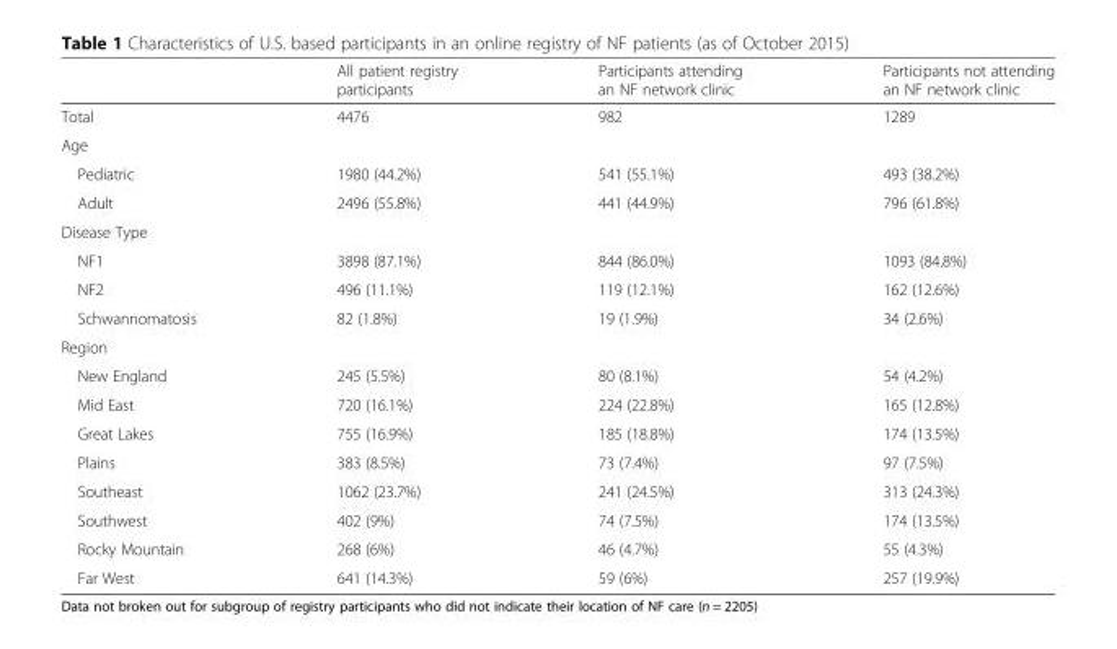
<table><thead><tr><td></td><td>All patient registry participants</td><td>Participants attending an NF network clinic</td><td>Participants not attending an NF network clinic</td></tr></thead><tbody><tr><td>Total</td><td>4476</td><td>982</td><td>1289</td></tr><tr><td colspan="4">Age</td></tr><tr><td>Pediatric</td><td>1980 (44.2%)</td><td>541 (55.1%)</td><td>493 (38.2%)</td></tr><tr><td>Adult</td><td>2496 (55.8%)</td><td>441 (44.9%)</td><td>796 (61.8%)</td></tr><tr><td colspan="4">Disease Type</td></tr><tr><td>NF1</td><td>3898 (87.1%)</td><td>844 (86.0%)</td><td>1093 (84.8%)</td></tr><tr><td>NF2</td><td>496 (11.1%)</td><td>119 (12.1%)</td><td>162 (12.6%)</td></tr><tr><td>Schwannomatosis</td><td>82 (1.8%)</td><td>19 (1.9%)</td><td>34 (2.6%)</td></tr><tr><td colspan="4">Region</td></tr><tr><td>New England</td><td>245 (5.5%)</td><td>80 (8.1%)</td><td>54 (4.2%)</td></tr><tr><td>Mid East</td><td>720 (16.1%)</td><td>224 (22.8%)</td><td>165 (12.8%)</td></tr><tr><td>Great Lakes</td><td>755 (16.9%)</td><td>185 (18.8%)</td><td>174 (13.5%)</td></tr><tr><td>Plains</td><td>383 (8.5%)</td><td>73 (7.4%)</td><td>97 (7.5%)</td></tr><tr><td>Southeast</td><td>1062 (23.7%)</td><td>241 (24.5%)</td><td>313 (24.3%)</td></tr><tr><td>Southwest</td><td>402 (9%)</td><td>74 (7.5%)</td><td>174 (13.5%)</td></tr><tr><td>Rocky Mountain</td><td>268 (6%)</td><td>46 (4.7%)</td><td>55 (4.3%)</td></tr><tr><td>Far West</td><td>641 (14.3%)</td><td>59 (6%)</td><td>257 (19.9%)</td></tr></tbody></table>